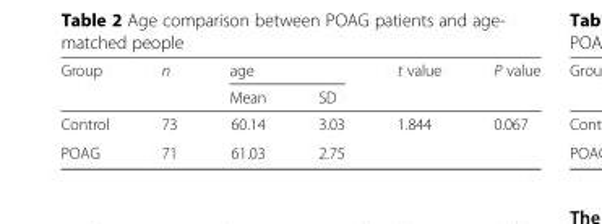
<table><thead><tr><td rowspan="2">Group</td><td rowspan="2">n</td><td colspan="2">age</td><td rowspan="2">t value</td><td rowspan="2">P value</td></tr><tr><td>Mean</td><td>SD</td></tr></thead><tbody><tr><td>Control</td><td>73</td><td>60.14</td><td>3.03</td><td rowspan="2">1.844</td><td rowspan="2">0.067</td></tr><tr><td>POAG</td><td>71</td><td>61.03</td><td>2.75</td></tr></tbody></table>